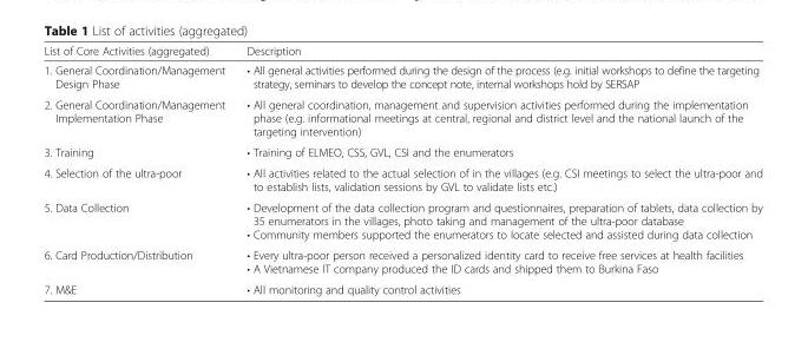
<table><thead><tr><td>List of Core Activities (aggregated)</td><td>Description</td></tr></thead><tbody><tr><td>1. General Coordination/Management Design Phase</td><td>• All general activities performed during the design of the process (e.g. initial workshops to define the targeting strategy, seminars to develop the concept note, internal workshops hold by SERSAP</td></tr><tr><td>2. General Coordination/Management Implementation Phase</td><td>• All general coordination, management and supervision activities performed during the implementation phase (e.g. informational meetings at central, regional and district level and the national launch of the targeting intervention)</td></tr><tr><td>3. Training</td><td>• Training of ELMEO, CSS, GVL, CSI and the enumerators</td></tr><tr><td>4. Selection of the ultra-poor</td><td>• All activities related to the actual selection of in the villages (e.g. CSI meetings to select the ultra-poor and to establish lists, validation sessions by GVL to validate lists etc.)</td></tr><tr><td>5. Data Collection</td><td>• Development of the data collection program and questionnaires, preparation of tablets, data collection by 35 enumerators in the villages, photo taking and management of the ultra-poor database • Community members supported the enumerators to locate selected and assisted during data collection</td></tr><tr><td>6. Card Production/Distribution</td><td>• Every ultra-poor person received a personalized identity card to receive free services at health facilities • A Vietnamese IT company produced the ID cards and shipped them to Burkina Faso</td></tr><tr><td>7. M&amp;E</td><td>• All monitoring and quality control activities</td></tr></tbody></table>